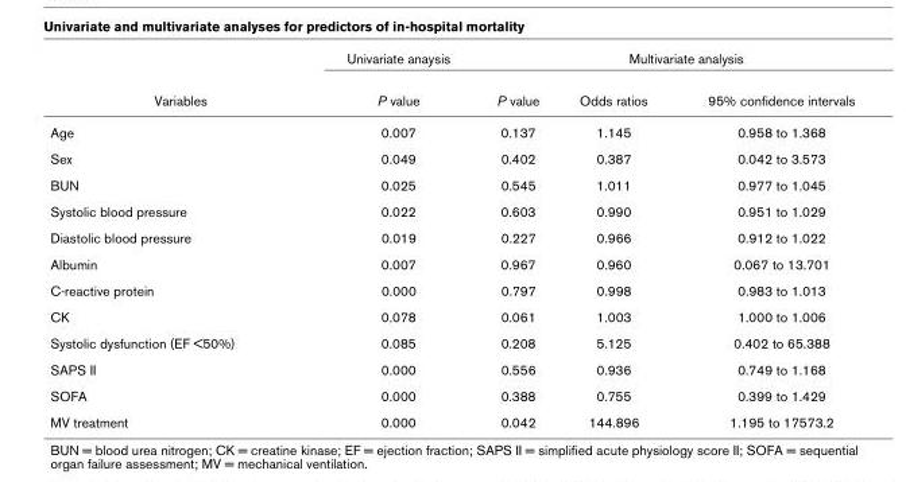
<table><thead><tr><td rowspan="2">Variables</td><td rowspan="2">Univariate anaysis P value</td><td colspan="3">Multivariate analysis</td></tr><tr><td>P value</td><td>Odds ratios</td><td>95% confidence intervals</td></tr></thead><tbody><tr><td>Age</td><td>0.007</td><td>0.137</td><td>1.145</td><td>0.958 to 1.368</td></tr><tr><td>Sex</td><td>0.049</td><td>0.402</td><td>0.387</td><td>0.042 to 3.573</td></tr><tr><td>BUN</td><td>0.025</td><td>0.545</td><td>1.011</td><td>0.977 to 1.045</td></tr><tr><td>Systolic blood pressure</td><td>0.022</td><td>0.603</td><td>0.990</td><td>0.951 to 1.029</td></tr><tr><td>Diastolic blood pressure</td><td>0.019</td><td>0.227</td><td>0.966</td><td>0.912 to 1.022</td></tr><tr><td>Albumin</td><td>0.007</td><td>0.967</td><td>0.960</td><td>0.067 to 13.701</td></tr><tr><td>C-reactive protein</td><td>0.000</td><td>0.797</td><td>0.998</td><td>0.983 to 1.013</td></tr><tr><td>CK</td><td>0.078</td><td>0.061</td><td>1.003</td><td>1.000 to 1.006</td></tr><tr><td>Systolic dysfunction (EF &lt;50%)</td><td>0.085</td><td>0.208</td><td>5.125</td><td>0.402 to 65.388</td></tr><tr><td>SAPS II</td><td>0.000</td><td>0.556</td><td>0.936</td><td>0.749 to 1.168</td></tr><tr><td>SOFA</td><td>0.000</td><td>0.388</td><td>0.755</td><td>0.399 to 1.429</td></tr><tr><td>MV treatment</td><td>0.000</td><td>0.042</td><td>144.896</td><td>1.195 to 17573.2</td></tr></tbody></table>